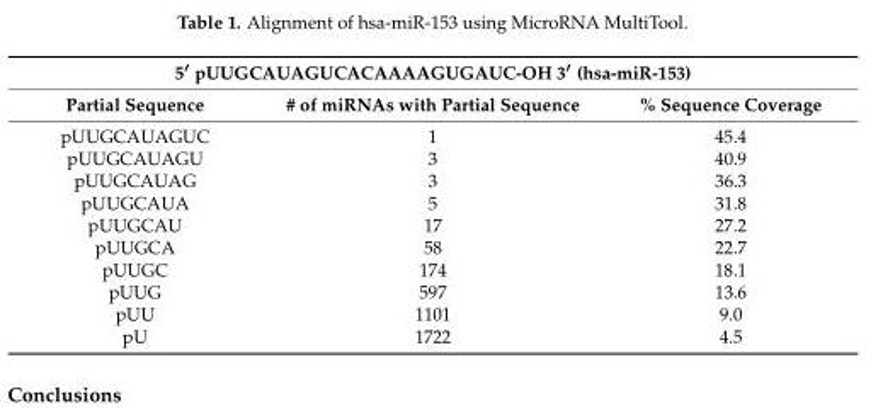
<table><thead><tr><td colspan="3">5′ pUUGCAUAGUCACAAAAGUGAUC-OH 3′ (hsa-miR-153)</td></tr><tr><td>Partial Sequence</td><td># of miRNAs with Partial Sequence</td><td>% Sequence Coverage</td></tr></thead><tbody><tr><td>pUUGCAUAGUC</td><td>1</td><td>45.4</td></tr><tr><td>pUUGCAUAGU</td><td>3</td><td>40.9</td></tr><tr><td>pUUGCAUAG</td><td>3</td><td>36.3</td></tr><tr><td>pUUGCAUA</td><td>5</td><td>31.8</td></tr><tr><td>pUUGCAU</td><td>17</td><td>27.2</td></tr><tr><td>pUUGCA</td><td>58</td><td>22.7</td></tr><tr><td>pUUGC</td><td>174</td><td>18.1</td></tr><tr><td>pUUG</td><td>597</td><td>13.6</td></tr><tr><td>pUU</td><td>1101</td><td>9.0</td></tr><tr><td>pU</td><td>1722</td><td>4.5</td></tr></tbody></table>